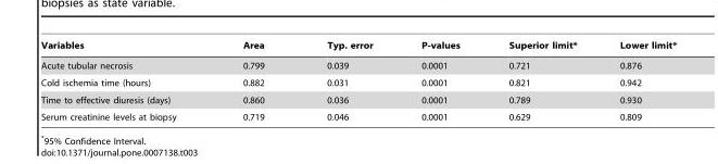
<table><thead><tr><td>Variables</td><td>Area</td><td>Typ. error</td><td>P-values</td><td>Superior limit*</td><td>Lower limit*</td></tr></thead><tbody><tr><td>Acute tubular necrosis</td><td>0.799</td><td>0.039</td><td>0.0001</td><td>0.721</td><td>0.876</td></tr><tr><td>Cold ischemia time (hours)</td><td>0.882</td><td>0.031</td><td>0.0001</td><td>0.821</td><td>0.942</td></tr><tr><td>Time to effective diuresis (days)</td><td>0.860</td><td>0.036</td><td>0.0001</td><td>0.789</td><td>0.930</td></tr><tr><td>Serum creatinine levels at biopsy</td><td>0.719</td><td>0.046</td><td>0.0001</td><td>0.629</td><td>0.809</td></tr></tbody></table>